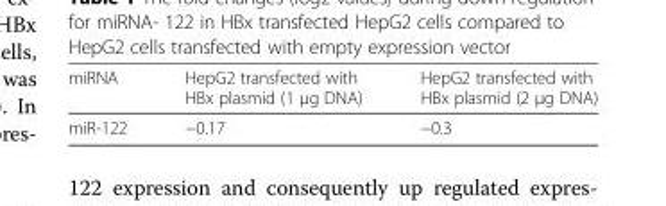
<table><thead><tr><td>miRNA</td><td>HepG2 transfected with HBx plasmid (1 μg DNA)</td><td>HepG2 transfected with HBx plasmid (2 μg DNA)</td></tr></thead><tbody><tr><td>miR-122</td><td>−0.17</td><td>−0.3</td></tr></tbody></table>